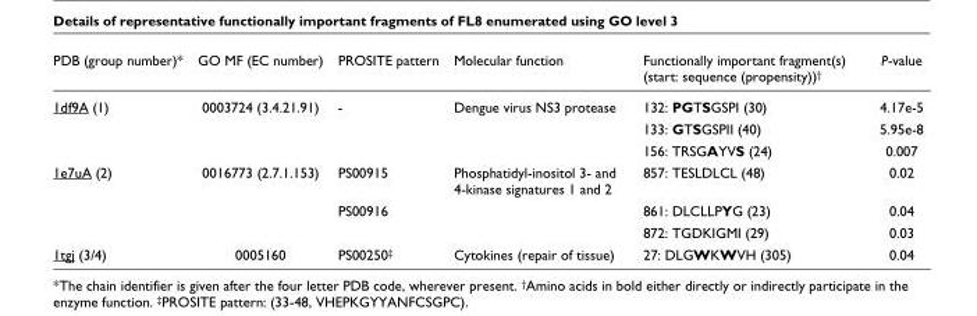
<table><thead><tr><td>PDB (group number)*</td><td>GO MF (EC number)</td><td>PROSITE pattern</td><td>Molecular function</td><td>Functionally important fragment(s) (start: sequence (propensity))<sup>†</sup></td><td>P-value</td></tr></thead><tbody><tr><td rowspan="3">1df9A (1)</td><td>0003724 (3.4.21.91)</td><td>-</td><td>Dengue virus NS3 protease</td><td>132: PGTSGSPI (30)</td><td>4.17e-5</td></tr><tr><td></td><td></td><td></td><td>133: GTSGSPII (40)</td><td>5.95e-8</td></tr><tr><td></td><td></td><td></td><td>156: TRSGAYVS (24)</td><td>0.007</td></tr><tr><td rowspan="3">1e7uA (2)</td><td>0016773 (2.7.1.153)</td><td>PS00915</td><td>Phosphatidyl-inositol 3- and 4-kinase signatures 1 and 2</td><td>857: TESLDLCL (48)</td><td>0.02</td></tr><tr><td></td><td>PS00916</td><td></td><td>861: DLCLLPYG (23)</td><td>0.04</td></tr><tr><td></td><td></td><td></td><td>872: TGDKIGMI (29)</td><td>0.03</td></tr><tr><td>1tgj (3/4)</td><td>0005160</td><td>PS00250<sup>‡</sup></td><td>Cytokines (repair of tissue)</td><td>27: DLGWKWVH (305)</td><td>0.04</td></tr></tbody></table>